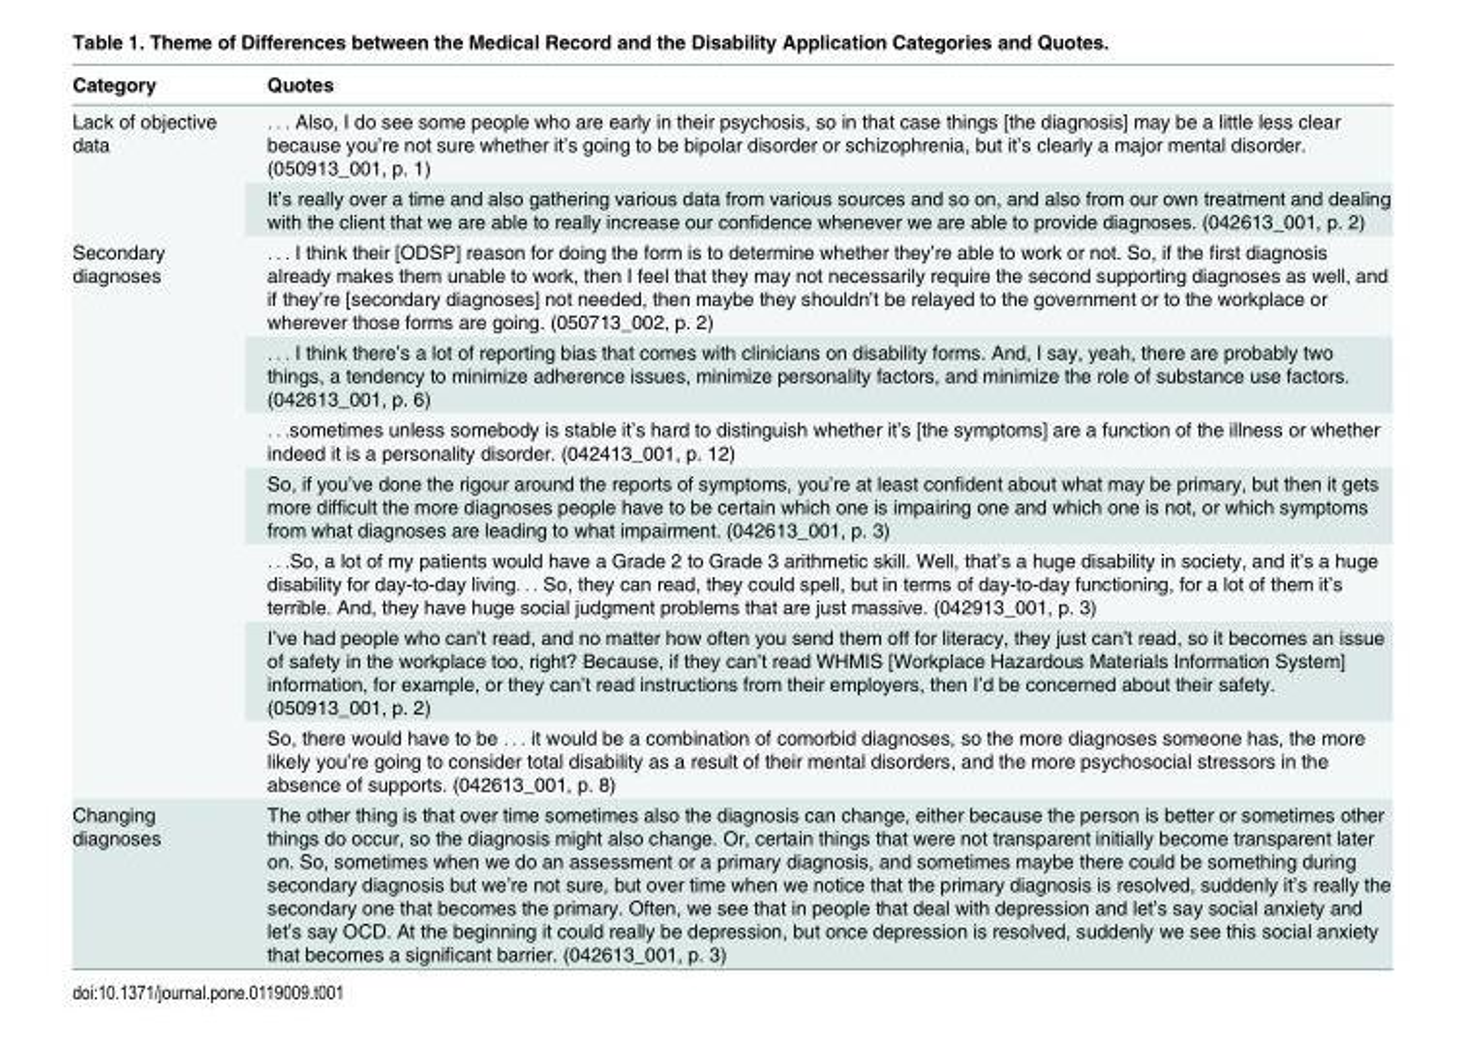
<table><thead><tr><td>Category</td><td>Quotes</td></tr></thead><tbody><tr><td rowspan="2">Lack of objective data</td><td>. . . Also, I do see some people who are early in their psychosis, so in that case things [the diagnosis] may be a little less clear because you’re not sure whether it’s going to be bipolar disorder or schizophrenia, but it’s clearly a major mental disorder. (050913_001, p. 1)</td></tr><tr><td>It’s really over a time and also gathering various data from various sources and so on, and also from our own treatment and dealing with the client that we are able to really increase our confidence whenever we are able to provide diagnoses. (042613_001, p. 2)</td></tr><tr><td rowspan="7">Secondary diagnoses</td><td>. . . I think their [ODSP] reason for doing the form is to determine whether they’re able to work or not. So, if the first diagnosis already makes them unable to work, then I feel that they may not necessarily require the second supporting diagnoses as well, and if they’re [secondary diagnoses] not needed, then maybe they shouldn’t be relayed to the government or to the workplace or wherever those forms are going. (050713_002, p. 2)</td></tr><tr><td>. . . I think there’s a lot of reporting bias that comes with clinicians on disability forms. And, I say, yeah, there are probably two things, a tendency to minimize adherence issues, minimize personality factors, and minimize the role of substance use factors. (042613_001, p. 6)</td></tr><tr><td>. . .sometimes unless somebody is stable it’s hard to distinguish whether it’s [the symptoms] are a function of the illness or whether indeed it is a personality disorder. (042413_001, p. 12)</td></tr><tr><td>So, if you’ve done the rigour around the reports of symptoms, you’re at least confident about what may be primary, but then it gets more difficult the more diagnoses people have to be certain which one is impairing one and which one is not, or which symptoms from what diagnoses are leading to what impairment. (042613_001, p. 3)</td></tr><tr><td>. . .So, a lot of my patients would have a Grade 2 to Grade 3 arithmetic skill. Well, that’s a huge disability in society, and it’s a huge disability for day-to-day living. . . So, they can read, they could spell, but in terms of day-to-day functioning, for a lot of them it’s terrible. And, they have huge social judgment problems that are just massive. (042913_001, p. 3)</td></tr><tr><td>I’ve had people who can’t read, and no matter how often you send them off for literacy, they just can’t read, so it becomes an issue of safety in the workplace too, right? Because, if they can’t read WHMIS [Workplace Hazardous Materials Information System] information, for example, or they can’t read instructions from their employers, then I’d be concerned about their safety. (050913_001, p. 2)</td></tr><tr><td>So, there would have to be . . . it would be a combination of comorbid diagnoses, so the more diagnoses someone has, the more likely you’re going to consider total disability as a result of their mental disorders, and the more psychosocial stressors in the absence of supports. (042613_001, p. 8)</td></tr><tr><td>Changing diagnoses</td><td>The other thing is that over time sometimes also the diagnosis can change, either because the person is better or sometimes other things do occur, so the diagnosis might also change. Or, certain things that were not transparent initially become transparent later on. So, sometimes when we do an assessment or a primary diagnosis, and sometimes maybe there could be something during secondary diagnosis but we’re not sure, but over time when we notice that the primary diagnosis is resolved, suddenly it’s really the secondary one that becomes the primary. Often, we see that in people that deal with depression and let’s say social anxiety and let’s say OCD. At the beginning it could really be depression, but once depression is resolved, suddenly we see this social anxiety that becomes a significant barrier. (042613_001, p. 3)</td></tr></tbody></table>